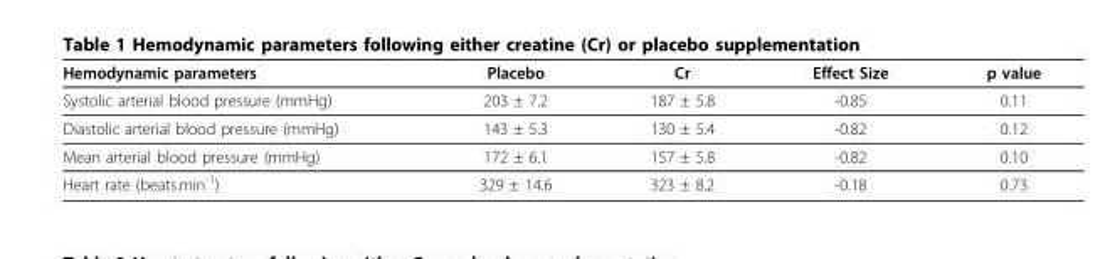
<table><thead><tr><td>Hemodynamic parameters</td><td>Placebo</td><td>Cr</td><td>Effect Size</td><td>p value</td></tr></thead><tbody><tr><td>Systolic arterial blood pressure (mmHg)</td><td>203 ± 7.2</td><td>187 ± 5.8</td><td>-0.85</td><td>0.11</td></tr><tr><td>Diastolic arterial blood pressure (mmHg)</td><td>143 ± 5.3</td><td>130 ± 5.4</td><td>-0.82</td><td>0.12</td></tr><tr><td>Mean arterial blood pressure (mmHg)</td><td>172 ± 6.1</td><td>157 ± 5.8</td><td>-0.82</td><td>0.10</td></tr><tr><td>Heart rate (beats.min<sup>-1</sup>)</td><td>329 ± 14.6</td><td>323 ± 8.2</td><td>-0.18</td><td>0.73</td></tr></tbody></table>